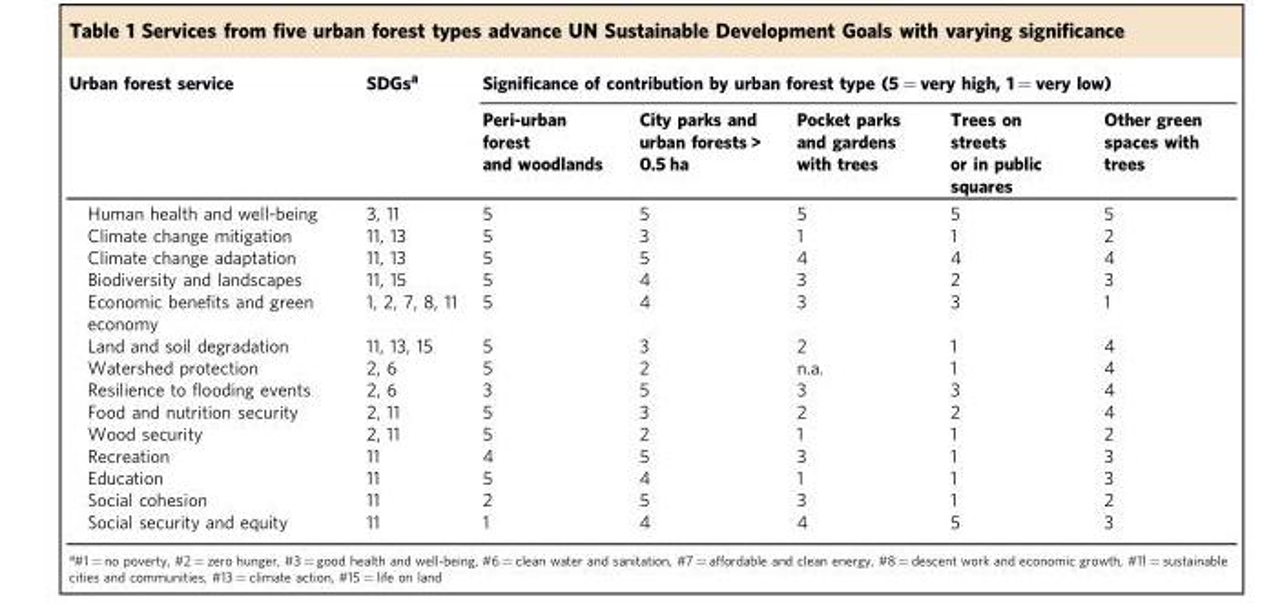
<table><thead><tr><td rowspan="2">Urban forest service</td><td rowspan="2">SDGs<sup>a</sup></td><td colspan="5">Significance of contribution by urban forest type (5 = very high, 1 = very low)</td></tr><tr><td>Peri-urban forest and woodlands</td><td>City parks and urban forests &gt; 0.5 ha</td><td>Pocket parks and gardens with trees</td><td>Trees on streets or in public squares</td><td>Other green spaces with trees</td></tr></thead><tbody><tr><td>Human health and well-being</td><td>3, 11</td><td>5</td><td>5</td><td>5</td><td>5</td><td>5</td></tr><tr><td>Climate change mitigation</td><td>11, 13</td><td>5</td><td>3</td><td>1</td><td>1</td><td>2</td></tr><tr><td>Climate change adaptation</td><td>11, 13</td><td>5</td><td>5</td><td>4</td><td>4</td><td>4</td></tr><tr><td>Biodiversity and landscapes</td><td>11, 15</td><td>5</td><td>4</td><td>3</td><td>2</td><td>3</td></tr><tr><td>Economic benefits and green economy</td><td>1, 2, 7, 8, 11</td><td>5</td><td>4</td><td>3</td><td>3</td><td>1</td></tr><tr><td>Land and soil degradation</td><td>11, 13, 15</td><td>5</td><td>3</td><td>2</td><td>1</td><td>4</td></tr><tr><td>Watershed protection</td><td>2, 6</td><td>5</td><td>2</td><td>n.a.</td><td>1</td><td>4</td></tr><tr><td>Resilience to flooding events</td><td>2, 6</td><td>3</td><td>5</td><td>3</td><td>3</td><td>4</td></tr><tr><td>Food and nutrition security</td><td>2, 11</td><td>5</td><td>3</td><td>2</td><td>2</td><td>4</td></tr><tr><td>Wood security</td><td>2, 11</td><td>5</td><td>2</td><td>1</td><td>1</td><td>2</td></tr><tr><td>Recreation</td><td>11</td><td>4</td><td>5</td><td>3</td><td>1</td><td>3</td></tr><tr><td>Education</td><td>11</td><td>5</td><td>4</td><td>1</td><td>1</td><td>3</td></tr><tr><td>Social cohesion</td><td>11</td><td>2</td><td>5</td><td>3</td><td>1</td><td>2</td></tr><tr><td>Social security and equity</td><td>11</td><td>1</td><td>4</td><td>4</td><td>5</td><td>3</td></tr></tbody></table>